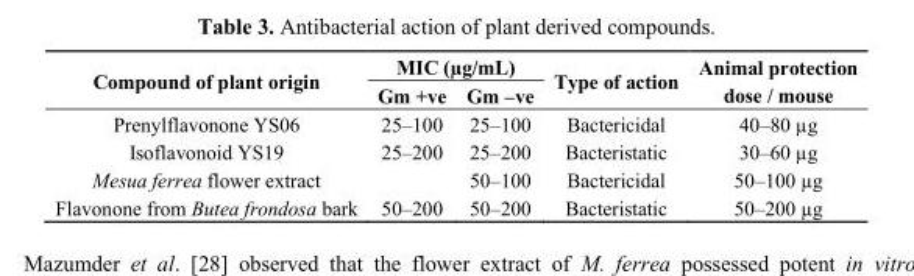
<table><thead><tr><td rowspan="2">Compound of plant origin</td><td colspan="2">MIC (µg/mL)</td><td rowspan="2">Type of action</td><td rowspan="2">Animal protection dose / mouse</td></tr><tr><td>Gm +ve</td><td>Gm –ve</td></tr></thead><tbody><tr><td>Prenylflavonone YS06</td><td>25–100</td><td>25–100</td><td>Bactericidal</td><td>40–80 µg</td></tr><tr><td>Isoflavonoid YS19</td><td>25–200</td><td>25–200</td><td>Bacteristatic</td><td>30–60 µg</td></tr><tr><td>Mesua ferrea flower extract</td><td></td><td>50–100</td><td>Bactericidal</td><td>50–100 µg</td></tr><tr><td>Flavonone from Butea frondosa bark</td><td>50–200</td><td>50–200</td><td>Bacteristatic</td><td>50–200 µg</td></tr></tbody></table>